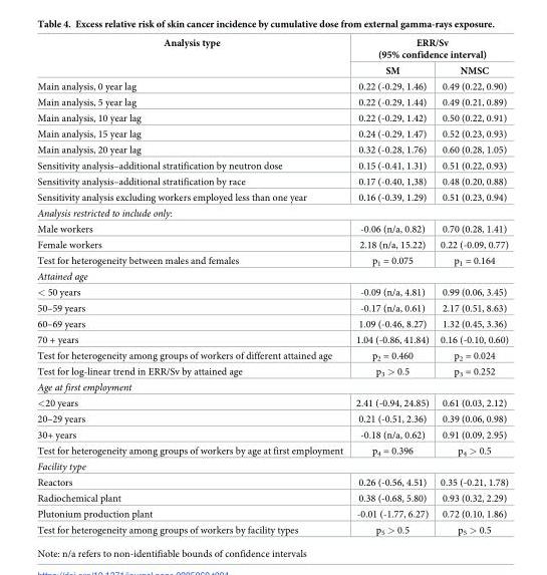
<table><thead><tr><td rowspan="2">Analysis type</td><td colspan="2">ERR/Sv (95% confidence interval)</td></tr><tr><td>SM</td><td>NMSC</td></tr></thead><tbody><tr><td>Main analysis, 0 year lag</td><td>0.22 (-0.29, 1.46)</td><td>0.49 (0.22, 0.90)</td></tr><tr><td>Main analysis, 5 year lag</td><td>0.22 (-0.29, 1.44)</td><td>0.49 (0.21, 0.89)</td></tr><tr><td>Main analysis, 10 year lag</td><td>0.22 (-0.29, 1.42)</td><td>0.50 (0.22, 0.91)</td></tr><tr><td>Main analysis, 15 year lag</td><td>0.24 (-0.29, 1.47)</td><td>0.52 (0.23, 0.93)</td></tr><tr><td>Main analysis, 20 year lag</td><td>0.32 (-0.28, 1.76)</td><td>0.60 (0.28, 1.05)</td></tr><tr><td>Sensitivity analysis–additional stratification by neutron dose</td><td>0.15 (-0.41, 1.31)</td><td>0.51 (0.22, 0.93)</td></tr><tr><td>Sensitivity analysis–additional stratification by race</td><td>0.17 (-0.40, 1,38)</td><td>0.48 (0.20, 0.88)</td></tr><tr><td>Sensitivity analysis excluding workers employed less than one year</td><td>0.16 (-0.39, 1.29)</td><td>0.51 (0.23, 0.94)</td></tr><tr><td colspan="3">Analysis restricted to include only:</td></tr><tr><td>Male workers</td><td>-0.06 (n/a, 0.82)</td><td>0.70 (0.28, 1.41)</td></tr><tr><td>Female workers</td><td>2.18 (n/a, 15.22)</td><td>0.22 (-0.09, 0.77)</td></tr><tr><td>Test for heterogeneity between males and females</td><td>p<sub>1</sub> = 0.075</td><td>p<sub>1</sub> = 0.164</td></tr><tr><td colspan="3">Attained age</td></tr><tr><td>&lt; 50 years</td><td>-0.09 (n/a, 4.81)</td><td>0.99 (0.06, 3.45)</td></tr><tr><td>50–59 years</td><td>-0.17 (n/a, 0.61)</td><td>2.17 (0.51, 8.63)</td></tr><tr><td>60–69 years</td><td>1.09 (-0.46, 8.27)</td><td>1.32 (0.45, 3.36)</td></tr><tr><td>70 + years</td><td>1.04 (-0.86, 41.84)</td><td>0.16 (-0.10, 0.60)</td></tr><tr><td>Test for heterogeneity among groups of workers of different attained age</td><td>p<sub>2</sub> = 0.460</td><td>p<sub>2</sub> = 0.024</td></tr><tr><td>Test for log-linear trend in ERR/Sv by attained age</td><td>p<sub>3</sub> &gt; 0.5</td><td>p<sub>3</sub> = 0.252</td></tr><tr><td colspan="3">Age at first employment</td></tr><tr><td>&lt;20 years</td><td>2.41 (-0.94, 24.85)</td><td>0.61 (0.03, 2.12)</td></tr><tr><td>20–29 years</td><td>0.21 (-0.51, 2.36)</td><td>0.39 (0.06, 0.98)</td></tr><tr><td>30+ years</td><td>-0.18 (n/a, 0.62)</td><td>0.91 (0.09, 2.95)</td></tr><tr><td>Test for heterogeneity among groups of workers by age at first employment</td><td>p<sub>4</sub> = 0.396</td><td>p<sub>4</sub> &gt; 0.5</td></tr><tr><td colspan="3">Facility type</td></tr><tr><td>Reactors</td><td>0.26 (-0.56, 4.51)</td><td>0.35 (-0.21, 1.78)</td></tr><tr><td>Radiochemical plant</td><td>0.38 (-0.68, 5.80)</td><td>0.93 (0.32, 2.29)</td></tr><tr><td>Plutonium production plant</td><td>-0.01 (-1.77, 6.27)</td><td>0.72 (0.10, 1.86)</td></tr><tr><td>Test for heterogeneity among groups of workers by facility types</td><td>p<sub>5</sub> &gt; 0.5</td><td>p<sub>5</sub> &gt; 0.5</td></tr></tbody></table>